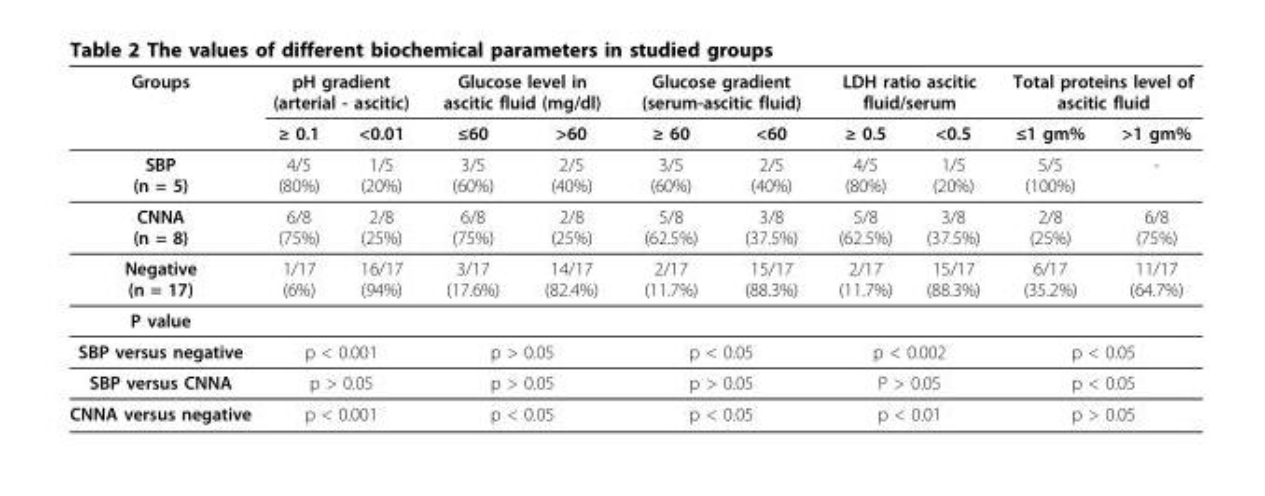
<table><thead><tr><td rowspan="2">Groups</td><td colspan="2">pH gradient (arterial - ascitic)</td><td colspan="2">Glucose level in ascitic fluid (mg/dl)</td><td colspan="2">Glucose gradient (serum-ascitic fluid)</td><td colspan="2">LDH ratio ascitic fluid/serum</td><td colspan="2">Total proteins level of ascitic fluid</td></tr><tr><td>≥ 0.1</td><td>&lt;0.01</td><td>≤60</td><td>&gt;60</td><td>≥ 60</td><td>&lt;60</td><td>≥ 0.5</td><td>&lt;0.5</td><td>≤1 gm%</td><td>&gt;1 gm%</td></tr></thead><tbody><tr><td>SBP (n = 5)</td><td>4/5 (80%)</td><td>1/5 (20%)</td><td>3/5 (60%)</td><td>2/5 (40%)</td><td>3/5 (60%)</td><td>2/5 (40%)</td><td>4/5 (80%)</td><td>1/5 (20%)</td><td>5/5 (100%)</td><td>-</td></tr><tr><td>CNNA (n = 8)</td><td>6/8 (75%)</td><td>2/8 (25%)</td><td>6/8 (75%)</td><td>2/8 (25%)</td><td>5/8 (62.5%)</td><td>3/8 (37.5%)</td><td>5/8 (62.5%)</td><td>3/8 (37.5%)</td><td>2/8 (25%)</td><td>6/8 (75%)</td></tr><tr><td>Negative (n = 17)</td><td>1/17 (6%)</td><td>16/17 (94%)</td><td>3/17 (17.6%)</td><td>14/17 (82.4%)</td><td>2/17 (11.7%)</td><td>15/17 (88.3%)</td><td>2/17 (11.7%)</td><td>15/17 (88.3%)</td><td>6/17 (35.2%)</td><td>11/17 (64.7%)</td></tr><tr><td colspan="11">P value</td></tr><tr><td>SBP versus negative</td><td colspan="2">p &lt; 0.001</td><td colspan="2">p &gt; 0.05</td><td colspan="2">p &lt; 0.05</td><td colspan="2">p &lt; 0.002</td><td colspan="2">p &lt; 0.05</td></tr><tr><td>SBP versus CNNA</td><td colspan="2">p &gt; 0.05</td><td colspan="2">p &gt; 0.05</td><td colspan="2">p &gt; 0.05</td><td colspan="2">P &gt; 0.05</td><td colspan="2">p &lt; 0.05</td></tr><tr><td>CNNA versus negative</td><td colspan="2">p &lt; 0.001</td><td colspan="2">p &lt; 0.05</td><td colspan="2">p &lt; 0.05</td><td colspan="2">p &lt; 0.01</td><td colspan="2">p &gt; 0.05</td></tr></tbody></table>